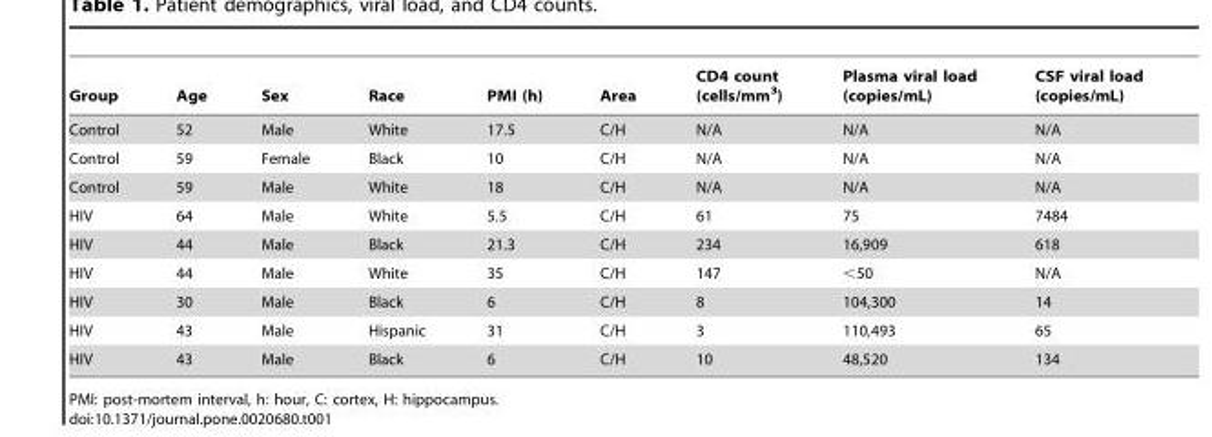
<table><thead><tr><td>Group</td><td>Age</td><td>Sex</td><td>Race</td><td>PMI (h)</td><td>Area</td><td>CD4 count (cells/mm<sup>3</sup>)</td><td>Plasma viral load (copies/mL)</td><td>CSF viral load (copies/mL)</td></tr></thead><tbody><tr><td>Control</td><td>52</td><td>Male</td><td>White</td><td>17.5</td><td>C/H</td><td>N/A</td><td>N/A</td><td>N/A</td></tr><tr><td>Control</td><td>59</td><td>Female</td><td>Black</td><td>10</td><td>C/H</td><td>N/A</td><td>N/A</td><td>N/A</td></tr><tr><td>Control</td><td>59</td><td>Male</td><td>White</td><td>18</td><td>C/H</td><td>N/A</td><td>N/A</td><td>N/A</td></tr><tr><td>HIV</td><td>64</td><td>Male</td><td>White</td><td>5.5</td><td>C/H</td><td>61</td><td>75</td><td>7484</td></tr><tr><td>HIV</td><td>44</td><td>Male</td><td>Black</td><td>21.3</td><td>C/H</td><td>234</td><td>16,909</td><td>618</td></tr><tr><td>HIV</td><td>44</td><td>Male</td><td>White</td><td>35</td><td>C/H</td><td>147</td><td>&lt;50</td><td>N/A</td></tr><tr><td>HIV</td><td>30</td><td>Male</td><td>Black</td><td>6</td><td>C/H</td><td>8</td><td>104,300</td><td>14</td></tr><tr><td>HIV</td><td>43</td><td>Male</td><td>Hispanic</td><td>31</td><td>C/H</td><td>3</td><td>110,493</td><td>65</td></tr><tr><td>HIV</td><td>43</td><td>Male</td><td>Black</td><td>6</td><td>C/H</td><td>10</td><td>48,520</td><td>134</td></tr></tbody></table>